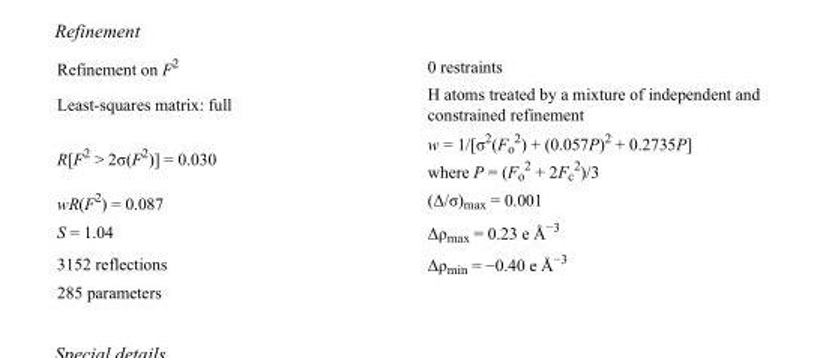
<table><tbody><tr><td>Refinement on F<sup>2</sup></td><td>0 restraints</td></tr><tr><td>Least-squares matrix: full</td><td>H atoms treated by a mixture of independent and constrained refinement</td></tr><tr><td>R[F<sup>2</sup> &gt; 2σ(F<sup>2</sup>)] = 0.030</td><td>w = 1/[σ<sup>2</sup>(F<sub>o</sub> <sup>2</sup>) + (0.057P)<sup>2</sup> + 0.2735P] where P = (F<sub>o</sub> <sup>2</sup> + 2F<sub>c</sub> <sup>2</sup>)/3</td></tr><tr><td>wR(F<sup>2</sup>) = 0.087</td><td>(Δ/σ)<sub>max</sub> = 0.001</td></tr><tr><td>S = 1.04</td><td>Δρ<sub>max</sub> = 0.23 e Å<sup>−3</sup></td></tr><tr><td>3152 reflections</td><td>Δρ<sub>min</sub> = −0.40 e Å<sup>−3</sup></td></tr><tr><td>285 parameters</td><td></td></tr></tbody></table>